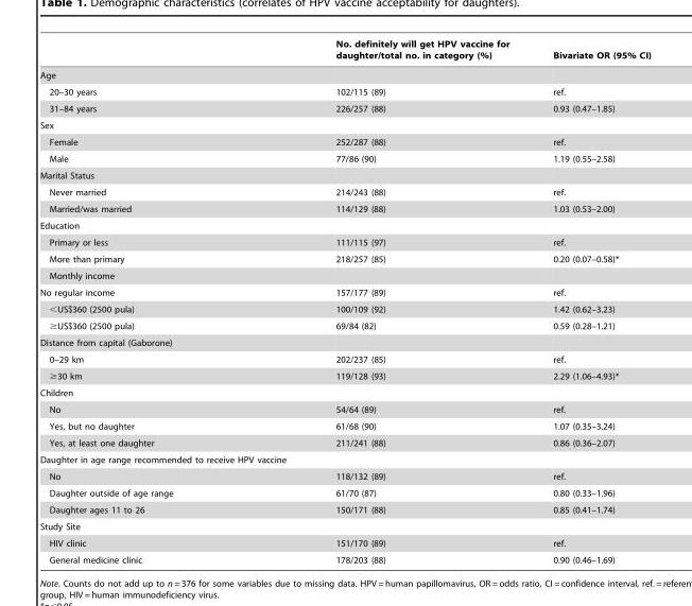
<table><thead><tr><td></td><td>No. definitely will get HPV vaccine for daughter/total no. in category (%)</td><td>Bivariate OR (95% CI)</td></tr></thead><tbody><tr><td colspan="3">Age</td></tr><tr><td>20–30 years</td><td>102/115 (89)</td><td>ref.</td></tr><tr><td>31–84 years</td><td>226/257 (88)</td><td>0.93 (0.47–1.85)</td></tr><tr><td colspan="3">Sex</td></tr><tr><td>Female</td><td>252/287 (88)</td><td>ref.</td></tr><tr><td>Male</td><td>77/86 (90)</td><td>1.19 (0.55–2.58)</td></tr><tr><td colspan="3">Marital Status</td></tr><tr><td>Never married</td><td>214/243 (88)</td><td>ref.</td></tr><tr><td>Married/was married</td><td>114/129 (88)</td><td>1.03 (0.53–2.00)</td></tr><tr><td colspan="3">Education</td></tr><tr><td>Primary or less</td><td>111/115 (97)</td><td>ref.</td></tr><tr><td>More than primary</td><td>218/257 (85)</td><td>0.20 (0.07–0.58)*</td></tr><tr><td colspan="3">Monthly income</td></tr><tr><td>No regular income</td><td>157/177 (89)</td><td>ref.</td></tr><tr><td>&lt;US$360 (2500 pula)</td><td>100/109 (92)</td><td>1.42 (0.62–3.23)</td></tr><tr><td>≥US$360 (2500 pula)</td><td>69/84 (82)</td><td>0.59 (0.28–1.21)</td></tr><tr><td colspan="3">Distance from capital (Gaborone)</td></tr><tr><td>0–29 km</td><td>202/237 (85)</td><td>ref.</td></tr><tr><td>≥30 km</td><td>119/128 (93)</td><td>2.29 (1.06–4.93)*</td></tr><tr><td colspan="3">Children</td></tr><tr><td>No</td><td>54/64 (89)</td><td>ref.</td></tr><tr><td>Yes, but no daughter</td><td>61/68 (90)</td><td>1.07 (0.35–3.24)</td></tr><tr><td>Yes, at least one daughter</td><td>211/241 (88)</td><td>0.86 (0.36–2.07)</td></tr><tr><td colspan="3">Daughter in age range recommended to receive HPV vaccine</td></tr><tr><td>No</td><td>118/132 (89)</td><td>ref.</td></tr><tr><td>Daughter outside of age range</td><td>61/70 (87)</td><td>0.80 (0.33–1.96)</td></tr><tr><td>Daughter ages 11 to 26</td><td>150/171 (88)</td><td>0.85 (0.41–1.74)</td></tr><tr><td colspan="3">Study Site</td></tr><tr><td>HIV clinic</td><td>151/170 (89)</td><td>ref.</td></tr><tr><td>General medicine clinic</td><td>178/203 (88)</td><td>0.90 (0.46–1.69)</td></tr></tbody></table>